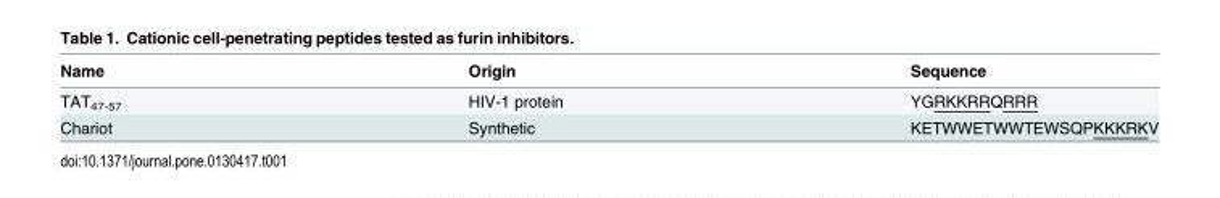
<table><thead><tr><td>Name</td><td>Origin</td><td>Sequence</td></tr></thead><tbody><tr><td>TAT<sub>47-57</sub></td><td>HIV-1 protein</td><td>YGRKKRRQRRR</td></tr><tr><td>Chariot</td><td>Synthetic</td><td>KETWWETWWTEWSQPKKKRKV</td></tr></tbody></table>